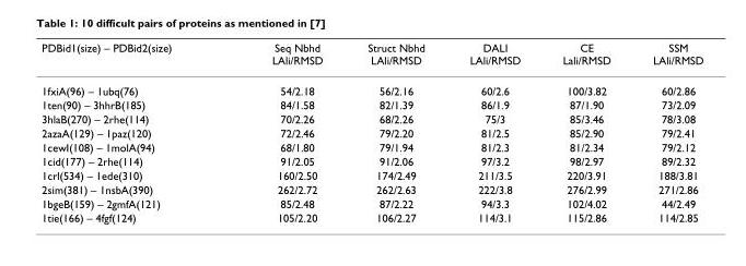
<table><thead><tr><td>PDBid1(size) – PDBid2(size)</td><td>Seq Nbhd LAli/RMSD</td><td>Struct Nbhd LAli/RMSD</td><td>DALI LAli/RMSD</td><td>CE Lali/RMSD</td><td>SSM LAli/RMSD</td></tr></thead><tbody><tr><td>1fxiA(96) – 1ubq(76)</td><td>54/2.18</td><td>56/2.16</td><td>60/2.6</td><td>100/3.82</td><td>60/2.86</td></tr><tr><td>1ten(90) – 3hhrB(185)</td><td>84/1.58</td><td>82/1.39</td><td>86/1.9</td><td>87/1.90</td><td>73/2.09</td></tr><tr><td>3hlaB(270) – 2rhe(114)</td><td>70/2.26</td><td>68/2.26</td><td>75/3</td><td>85/3.46</td><td>78/3.08</td></tr><tr><td>2azaA(129) – 1paz(120)</td><td>72/2.46</td><td>79/2.20</td><td>81/2.5</td><td>85/2.90</td><td>79/2.41</td></tr><tr><td>1cewI(108) – 1molA(94)</td><td>68/1.80</td><td>79/1.94</td><td>81/2.3</td><td>81/2.34</td><td>79/2.12</td></tr><tr><td>1cid(177) – 2rhe(114)</td><td>91/2.05</td><td>91/2.06</td><td>97/3.2</td><td>98/2.97</td><td>89/2.32</td></tr><tr><td>1crl(534) – 1ede(310)</td><td>160/2.50</td><td>174/2.49</td><td>211/3.5</td><td>220/3.91</td><td>188/3.81</td></tr><tr><td>2sim(381) – 1nsbA(390)</td><td>262/2.72</td><td>262/2.63</td><td>222/3.8</td><td>276/2.99</td><td>271/2.86</td></tr><tr><td>1bgeB(159) – 2gmfA(121)</td><td>85/2.48</td><td>87/2.22</td><td>94/3.3</td><td>102/4.02</td><td>44/2.49</td></tr><tr><td>1tie(166) – 4fgf(124)</td><td>105/2.20</td><td>106/2.27</td><td>114/3.1</td><td>115/2.86</td><td>114/2.85</td></tr></tbody></table>